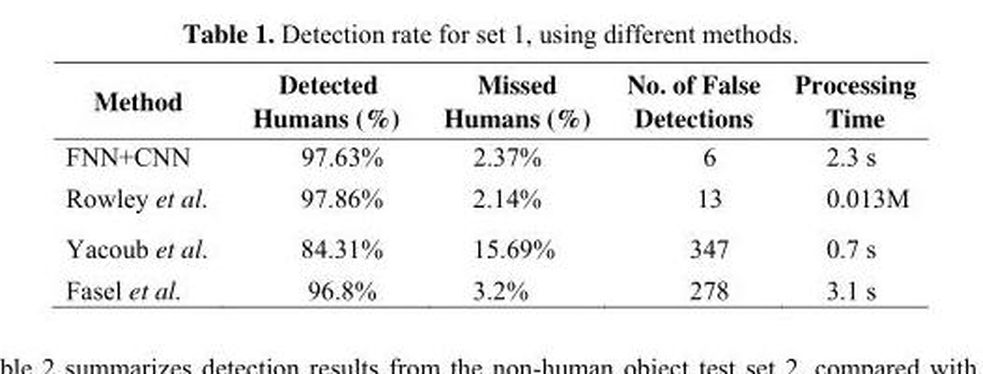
<table><thead><tr><td>Method</td><td>Detected Humans (%)</td><td>Missed Humans (%)</td><td>No. of False Detections</td><td>Processing Time</td></tr></thead><tbody><tr><td>FNN+CNN</td><td>97.63%</td><td>2.37%</td><td>6</td><td>2.3 s</td></tr><tr><td>Rowley et al.</td><td>97.86%</td><td>2.14%</td><td>13</td><td>0.013M</td></tr><tr><td>Yacoub et al.</td><td>84.31%</td><td>15.69%</td><td>347</td><td>0.7 s</td></tr><tr><td>Fasel et al.</td><td>96.8%</td><td>3.2%</td><td>278</td><td>3.1 s</td></tr></tbody></table>